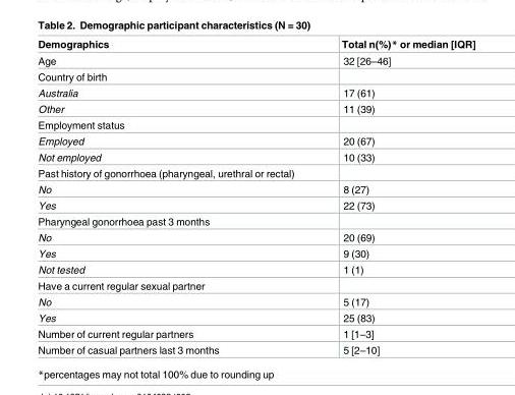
<table><thead><tr><td>Demographics</td><td>Total n(%)* or median [IQR]</td></tr></thead><tbody><tr><td>Age</td><td>32 [26–46]</td></tr><tr><td colspan="2">Country of birth</td></tr><tr><td>Australia</td><td>17 (61)</td></tr><tr><td>Other</td><td>11 (39)</td></tr><tr><td colspan="2">Employment status</td></tr><tr><td>Employed</td><td>20 (67)</td></tr><tr><td>Not employed</td><td>10 (33)</td></tr><tr><td colspan="2">Past history of gonorrhoea (pharyngeal, urethral or rectal)</td></tr><tr><td>No</td><td>8 (27)</td></tr><tr><td>Yes</td><td>22 (73)</td></tr><tr><td colspan="2">Pharyngeal gonorrhoea past 3 months</td></tr><tr><td>No</td><td>20 (69)</td></tr><tr><td>Yes</td><td>9 (30)</td></tr><tr><td>Not tested</td><td>1 (1)</td></tr><tr><td colspan="2">Have a current regular sexual partner</td></tr><tr><td>No</td><td>5 (17)</td></tr><tr><td>Yes</td><td>25 (83)</td></tr><tr><td>Number of current regular partners</td><td>1 [1–3]</td></tr><tr><td>Number of casual partners last 3 months</td><td>5 [2–10]</td></tr></tbody></table>